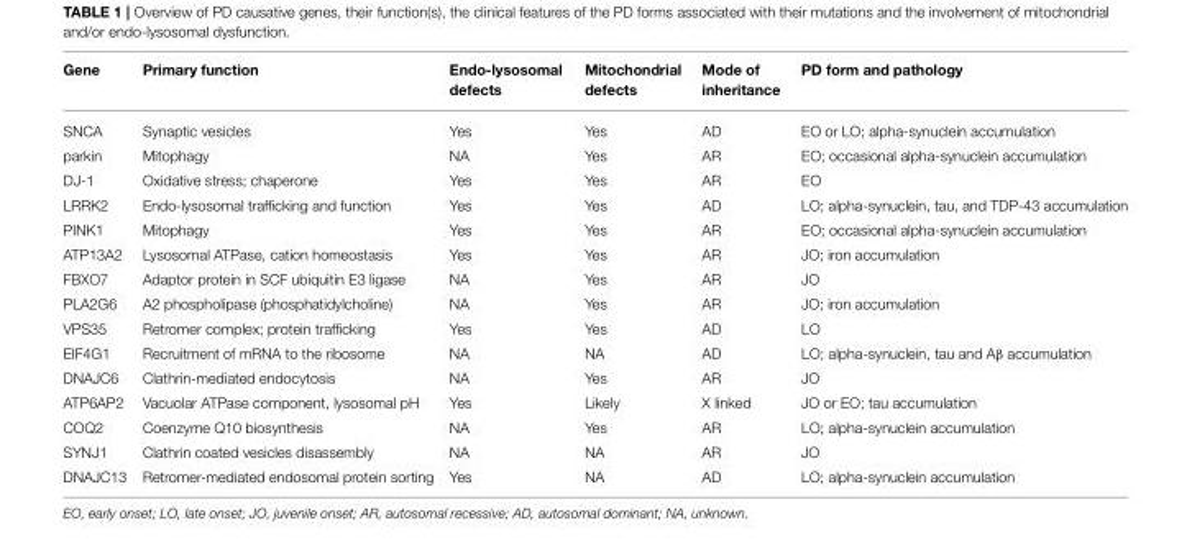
<table><thead><tr><td>Gene</td><td>Primary function</td><td>Endo-lysosomal defects</td><td>Mitochondrial defects</td><td>Mode of inheritance</td><td>PD form and pathology</td></tr></thead><tbody><tr><td>SNCA</td><td>Synaptic vesicles</td><td>Yes</td><td>Yes</td><td>AD</td><td>EO or LO; alpha-synuclein accumulation</td></tr><tr><td>parkin</td><td>Mitophagy</td><td>NA</td><td>Yes</td><td>AR</td><td>EO; occasional alpha-synuclein accumulation</td></tr><tr><td>DJ-1</td><td>Oxidative stress; chaperone</td><td>Yes</td><td>Yes</td><td>AR</td><td>EO</td></tr><tr><td>LRRK2</td><td>Endo-lysosomal trafficking and function</td><td>Yes</td><td>Yes</td><td>AD</td><td>LO; alpha-synuclein, tau, and TDP-43 accumulation</td></tr><tr><td>PINK1</td><td>Mitophagy</td><td>Yes</td><td>Yes</td><td>AR</td><td>EO; occasional alpha-synuclein accumulation</td></tr><tr><td>ATP13A2</td><td>Lysosomal ATPase, cation homeostasis</td><td>Yes</td><td>Yes</td><td>AR</td><td>JO; iron accumulation</td></tr><tr><td>FBXO7</td><td>Adaptor protein in SCF ubiquitin E3 ligase</td><td>NA</td><td>Yes</td><td>AR</td><td>JO</td></tr><tr><td>PLA2G6</td><td>A2 phospholipase (phosphatidylcholine)</td><td>NA</td><td>Yes</td><td>AR</td><td>JO; iron accumulation</td></tr><tr><td>VPS35</td><td>Retromer complex; protein trafficking</td><td>Yes</td><td>Yes</td><td>AD</td><td>LO</td></tr><tr><td>EIF4G1</td><td>Recruitment of mRNA to the ribosome</td><td>NA</td><td>NA</td><td>AD</td><td>LO; alpha-synuclein, tau and Aβ accumulation</td></tr><tr><td>DNAJC6</td><td>Clathrin-mediated endocytosis</td><td>NA</td><td>Yes</td><td>AR</td><td>JO</td></tr><tr><td>ATP6AP2</td><td>Vacuolar ATPase component, lysosomal pH</td><td>Yes</td><td>Likely</td><td>X linked</td><td>JO or EO; tau accumulation</td></tr><tr><td>COQ2</td><td>Coenzyme Q10 biosynthesis</td><td>NA</td><td>Yes</td><td>AR</td><td>LO; alpha-synuclein accumulation</td></tr><tr><td>SYNJ1</td><td>Clathrin coated vesicles disassembly</td><td>NA</td><td>NA</td><td>AR</td><td>JO</td></tr><tr><td>DNAJC13</td><td>Retromer-mediated endosomal protein sorting</td><td>Yes</td><td>NA</td><td>AD</td><td>LO; alpha-synuclein accumulation</td></tr></tbody></table>